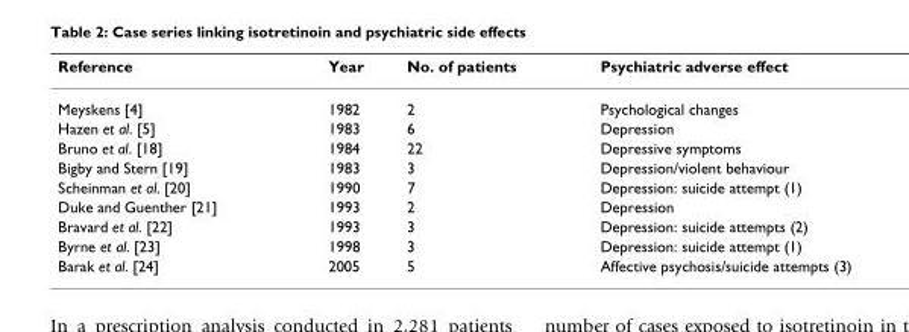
<table><thead><tr><td>Reference</td><td>Year</td><td>No. of patients</td><td>Psychiatric adverse effect</td></tr></thead><tbody><tr><td>Meyskens [4]</td><td>1982</td><td>2</td><td>Psychological changes</td></tr><tr><td>Hazen et al. [5]</td><td>1983</td><td>6</td><td>Depression</td></tr><tr><td>Bruno et al. [18]</td><td>1984</td><td>22</td><td>Depressive symptoms</td></tr><tr><td>Bigby and Stern [19]</td><td>1983</td><td>3</td><td>Depression/violent behaviour</td></tr><tr><td>Scheinman et al. [20]</td><td>1990</td><td>7</td><td>Depression: suicide attempt (1)</td></tr><tr><td>Duke and Guenther [21]</td><td>1993</td><td>2</td><td>Depression</td></tr><tr><td>Bravard et al. [22]</td><td>1993</td><td>3</td><td>Depression: suicide attempts (2)</td></tr><tr><td>Byrne et al. [23]</td><td>1998</td><td>3</td><td>Depression: suicide attempt (1)</td></tr><tr><td>Barak et al. [24]</td><td>2005</td><td>5</td><td>Affective psychosis/suicide attempts (3)</td></tr></tbody></table>